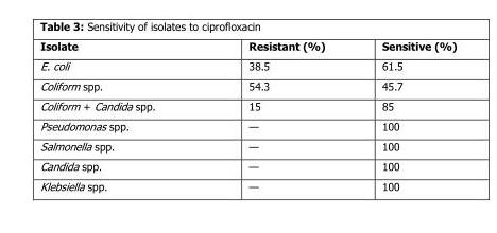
<table><thead><tr><td>Isolate</td><td>Resistant (%)</td><td>Sensitive (%)</td></tr></thead><tbody><tr><td>E. coli</td><td>38.5</td><td>61.5</td></tr><tr><td>Coliform spp.</td><td>54.3</td><td>45.7</td></tr><tr><td>Coliform + Candida spp.</td><td>15</td><td>85</td></tr><tr><td>Pseudomonas spp.</td><td>—</td><td>100</td></tr><tr><td>Salmonella spp.</td><td>—</td><td>100</td></tr><tr><td>Candida spp.</td><td>—</td><td>100</td></tr><tr><td>Klebsiella spp.</td><td>—</td><td>100</td></tr></tbody></table>